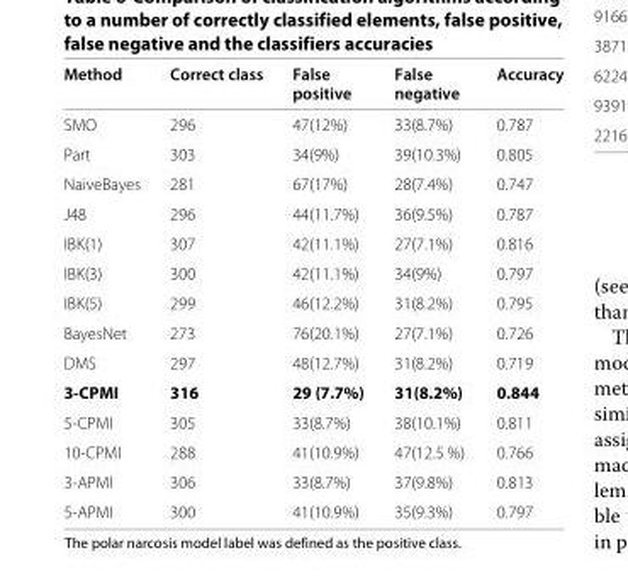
<table><thead><tr><td>Method</td><td>Correct class</td><td>False positive</td><td>False negative</td><td>Accuracy</td></tr></thead><tbody><tr><td>SMO</td><td>296</td><td>47(12%)</td><td>33(8.7%)</td><td>0.787</td></tr><tr><td>Part</td><td>303</td><td>34(9%)</td><td>39(10.3%)</td><td>0.805</td></tr><tr><td>NaiveBayes</td><td>281</td><td>67(17%)</td><td>28(7.4%)</td><td>0.747</td></tr><tr><td>J48</td><td>296</td><td>44(11.7%)</td><td>36(9.5%)</td><td>0.787</td></tr><tr><td>IBK(1)</td><td>307</td><td>42(11.1%)</td><td>27(7.1%)</td><td>0.816</td></tr><tr><td>IBK(3)</td><td>300</td><td>42(11.1%)</td><td>34(9%)</td><td>0.797</td></tr><tr><td>IBK(5)</td><td>299</td><td>46(12.2%)</td><td>31(8.2%)</td><td>0.795</td></tr><tr><td>BayesNet</td><td>273</td><td>76(20.1%)</td><td>27(7.1%)</td><td>0.726</td></tr><tr><td>DMS</td><td>297</td><td>48(12.7%)</td><td>31(8.2%)</td><td>0.719</td></tr><tr><td>3-CPMI</td><td>316</td><td>29 (7.7%)</td><td>31(8.2%)</td><td>0.844</td></tr><tr><td>5-CPMI</td><td>305</td><td>33(8.7%)</td><td>38(10.1%)</td><td>0.811</td></tr><tr><td>10-CPMI</td><td>288</td><td>41(10.9%)</td><td>47(12.5 %)</td><td>0.766</td></tr><tr><td>3-APMI</td><td>306</td><td>33(8.7%)</td><td>37(9.8%)</td><td>0.813</td></tr><tr><td>5-APMI</td><td>300</td><td>41(10.9%)</td><td>35(9.3%)</td><td>0.797</td></tr></tbody></table>